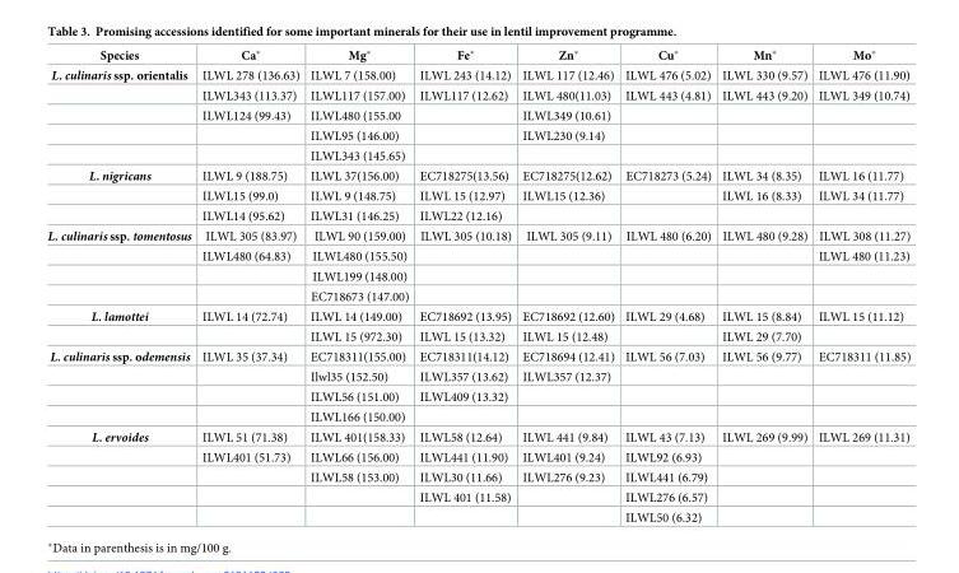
<table><thead><tr><td>Species</td><td>Ca*</td><td>Mg*</td><td>Fe*</td><td>Zn*</td><td>Cu*</td><td>Mn*</td><td>Mo*</td></tr></thead><tbody><tr><td rowspan="5">L. culinaris ssp. orientalis</td><td>ILWL 278 (136.63)</td><td>ILWL 7 (158.00)</td><td>ILWL 243 (14.12)</td><td>ILWL 117 (12.46)</td><td>ILWL 476 (5.02)</td><td>ILWL 330 (9.57)</td><td>ILWL 476 (11.90)</td></tr><tr><td>ILWL343 (113.37)</td><td>ILWL117 (157.00)</td><td>ILWL117 (12.62)</td><td>ILWL 480(11.03)</td><td>ILWL 443 (4.81)</td><td>ILWL 443 (9.20)</td><td>ILWL 349 (10.74)</td></tr><tr><td>ILWL124 (99.43)</td><td>ILWL480 (155.00</td><td></td><td>ILWL349 (10.61)</td><td></td><td></td><td></td></tr><tr><td></td><td>ILWL95 (146.00)</td><td></td><td>ILWL230 (9.14)</td><td></td><td></td><td></td></tr><tr><td></td><td>ILWL343 (145.65)</td><td></td><td></td><td></td><td></td><td></td></tr><tr><td rowspan="3">L. nigricans</td><td>ILWL 9 (188.75)</td><td>ILWL 37(156.00)</td><td>EC718275(13.56)</td><td>EC718275(12.62)</td><td>EC718273 (5.24)</td><td>ILWL 34 (8.35)</td><td>ILWL 16 (11.77)</td></tr><tr><td>ILWL15 (99.0)</td><td>ILWL 9 (148.75)</td><td>ILWL 15 (12.97)</td><td>ILWL15 (12.36)</td><td></td><td>ILWL 16 (8.33)</td><td>ILWL 34 (11.77)</td></tr><tr><td>ILWL14 (95.62)</td><td>ILWL31 (146.25)</td><td>ILWL22 (12.16)</td><td></td><td></td><td></td><td></td></tr><tr><td rowspan="4">L. culinaris ssp. tomentosus</td><td>ILWL 305 (83.97)</td><td>ILWL 90 (159.00)</td><td>ILWL 305 (10.18)</td><td>ILWL 305 (9.11)</td><td>ILWL 480 (6.20)</td><td>ILWL 480 (9.28)</td><td>ILWL 308 (11.27)</td></tr><tr><td>ILWL480 (64.83)</td><td>ILWL480 (155.50)</td><td></td><td></td><td></td><td></td><td>ILWL 480 (11.23)</td></tr><tr><td></td><td>ILWL199 (148.00)</td><td></td><td></td><td></td><td></td><td></td></tr><tr><td></td><td>EC718673 (147.00)</td><td></td><td></td><td></td><td></td><td></td></tr><tr><td rowspan="2">L. lamottei</td><td>ILWL 14 (72.74)</td><td>ILWL 14 (149.00)</td><td>EC718692 (13.95)</td><td>EC718692 (12.60)</td><td>ILWL 29 (4.68)</td><td>ILWL 15 (8.84)</td><td>ILWL 15 (11.12)</td></tr><tr><td></td><td>ILWL 15 (972.30)</td><td>ILWL 15 (13.32)</td><td>ILWL 15 (12.48)</td><td></td><td>ILWL 29 (7.70)</td><td></td></tr><tr><td rowspan="4">L. culinaris ssp. odemensis</td><td>ILWL 35 (37.34)</td><td>EC718311(155.00)</td><td>EC718311(14.12)</td><td>EC718694 (12.41)</td><td>ILWL 56 (7.03)</td><td>ILWL 56 (9.77)</td><td>EC718311 (11.85)</td></tr><tr><td></td><td>Ilwl35 (152.50)</td><td>ILWL357 (13.62)</td><td>ILWL357 (12.37)</td><td></td><td></td><td></td></tr><tr><td></td><td>ILWL56 (151.00)</td><td>ILWL409 (13.32)</td><td></td><td></td><td></td><td></td></tr><tr><td></td><td>ILWL166 (150.00)</td><td></td><td></td><td></td><td></td><td></td></tr><tr><td rowspan="5">L. ervoides</td><td>ILWL 51 (71.38)</td><td>ILWL 401(158.33)</td><td>ILWL58 (12.64)</td><td>ILWL 441 (9.84)</td><td>ILWL 43 (7.13)</td><td>ILWL 269 (9.99)</td><td>ILWL 269 (11.31)</td></tr><tr><td>ILWL401 (51.73)</td><td>ILWL66 (156.00)</td><td>ILWL441 (11.90)</td><td>ILWL401 (9.24)</td><td>ILWL92 (6.93)</td><td></td><td></td></tr><tr><td></td><td>ILWL58 (153.00)</td><td>ILWL30 (11.66)</td><td>ILWL276 (9.23)</td><td>ILWL441 (6.79)</td><td></td><td></td></tr><tr><td></td><td></td><td>ILWL 401 (11.58)</td><td></td><td>ILWL276 (6.57)</td><td></td><td></td></tr><tr><td></td><td></td><td></td><td></td><td>ILWL50 (6.32)</td><td></td><td></td></tr></tbody></table>